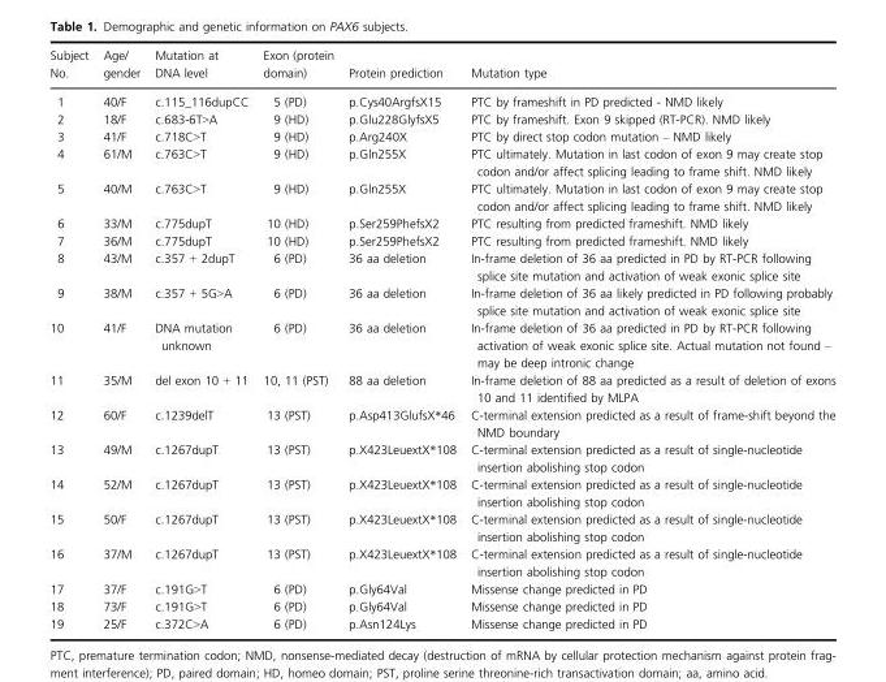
<table><thead><tr><td>Subject No.</td><td>Age/ gender</td><td>Mutation at DNA level</td><td>Exon (protein domain)</td><td>Protein prediction</td><td>Mutation type</td></tr></thead><tbody><tr><td>1</td><td>40/F</td><td>c.115_116dupCC</td><td>5 (PD)</td><td>p.Cys40ArgfsX15</td><td>PTC by frameshift in PD predicted - NMD likely</td></tr><tr><td>2</td><td>18/F</td><td>c.683-6T&gt;A</td><td>9 (HD)</td><td>p.Glu228GlyfsX5</td><td>PTC by frameshift. Exon 9 skipped (RT-PCR). NMD likely</td></tr><tr><td>3</td><td>41/F</td><td>c.718C&gt;T</td><td>9 (HD)</td><td>p.Arg240X</td><td>PTC by direct stop codon mutation – NMD likely</td></tr><tr><td>4</td><td>61/M</td><td>c.763C&gt;T</td><td>9 (HD)</td><td>p.Gln255X</td><td>PTC ultimately. Mutation in last codon of exon 9 may create stop codon and/or affect splicing leading to frame shift. NMD likely</td></tr><tr><td>5</td><td>40/M</td><td>c.763C&gt;T</td><td>9 (HD)</td><td>p.Gln255X</td><td>PTC ultimately. Mutation in last codon of exon 9 may create stop codon and/or affect splicing leading to frame shift. NMD likely</td></tr><tr><td>6</td><td>33/M</td><td>c.775dupT</td><td>10 (HD)</td><td>p.Ser259PhefsX2</td><td>PTC resulting from predicted frameshift. NMD likely</td></tr><tr><td>7</td><td>36/M</td><td>c.775dupT</td><td>10 (HD)</td><td>p.Ser259PhefsX2</td><td>PTC resulting from predicted frameshift. NMD likely</td></tr><tr><td>8</td><td>43/M</td><td>c.357 + 2dupT</td><td>6 (PD)</td><td>36 aa deletion</td><td>In-frame deletion of 36 aa predicted in PD by RT-PCR following splice site mutation and activation of weak exonic splice site</td></tr><tr><td>9</td><td>38/M</td><td>c.357 + 5G&gt;A</td><td>6 (PD)</td><td>36 aa deletion</td><td>In-frame deletion of 36 aa likely predicted in PD following probably splice site mutation and activation of weak exonic splice site</td></tr><tr><td>10</td><td>41/F</td><td>DNA mutation unknown</td><td>6 (PD)</td><td>36 aa deletion</td><td>In-frame deletion of 36 aa predicted in PD by RT-PCR following activation of weak exonic splice site. Actual mutation not found – may be deep intronic change</td></tr><tr><td>11</td><td>35/M</td><td>del exon 10 + 11</td><td>10, 11 (PST)</td><td>88 aa deletion</td><td>In-frame deletion of 88 aa predicted as a result of deletion of exons 10 and 11 identified by MLPA</td></tr><tr><td>12</td><td>60/F</td><td>c.1239delT</td><td>13 (PST)</td><td>p.Asp413GlufsX*46</td><td>C-terminal extension predicted as a result of frame-shift beyond the NMD boundary</td></tr><tr><td>13</td><td>49/M</td><td>c.1267dupT</td><td>13 (PST)</td><td>p.X423LeuextX*108</td><td>C-terminal extension predicted as a result of single-nucleotide insertion abolishing stop codon</td></tr><tr><td>14</td><td>52/M</td><td>c.1267dupT</td><td>13 (PST)</td><td>p.X423LeuextX*108</td><td>C-terminal extension predicted as a result of single-nucleotide insertion abolishing stop codon</td></tr><tr><td>15</td><td>50/F</td><td>c.1267dupT</td><td>13 (PST)</td><td>p.X423LeuextX*108</td><td>C-terminal extension predicted as a result of single-nucleotide insertion abolishing stop codon</td></tr><tr><td>16</td><td>37/M</td><td>c.1267dupT</td><td>13 (PST)</td><td>p.X423LeuextX*108</td><td>C-terminal extension predicted as a result of single-nucleotide insertion abolishing stop codon</td></tr><tr><td>17</td><td>37/F</td><td>c.191G&gt;T</td><td>6 (PD)</td><td>p.Gly64Val</td><td>Missense change predicted in PD</td></tr><tr><td>18</td><td>73/F</td><td>c.191G&gt;T</td><td>6 (PD)</td><td>p.Gly64Val</td><td>Missense change predicted in PD</td></tr><tr><td>19</td><td>25/F</td><td>c.372C&gt;A</td><td>6 (PD)</td><td>p.Asn124Lys</td><td>Missense change predicted in PD</td></tr></tbody></table>